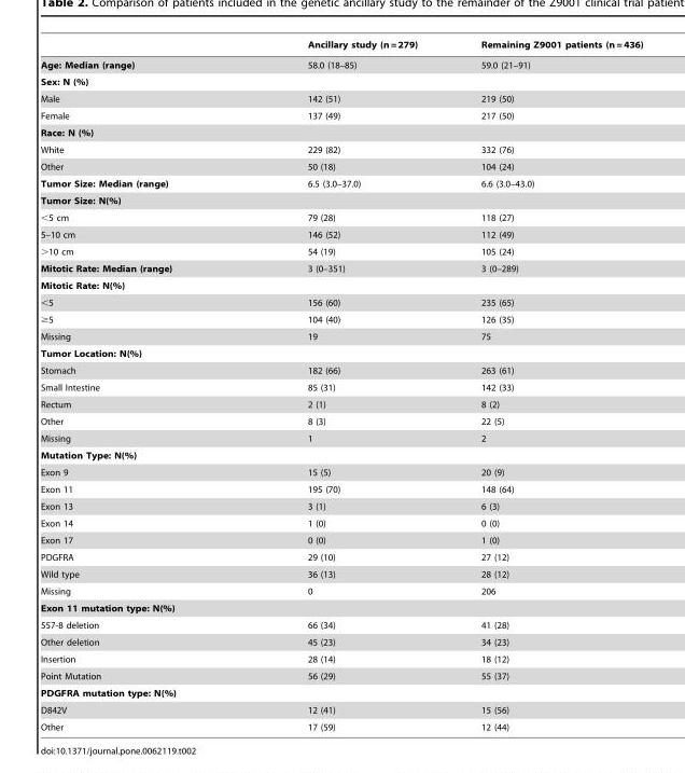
<table><thead><tr><td></td><td>Ancillary study (n = 279)</td><td>Remaining Z9001 patients (n = 436)</td></tr></thead><tbody><tr><td>Age: Median (range)</td><td>58.0 (18–85)</td><td>59.0 (21–91)</td></tr><tr><td colspan="3">Sex: N (%)</td></tr><tr><td>Male</td><td>142 (51)</td><td>219 (50)</td></tr><tr><td>Female</td><td>137 (49)</td><td>217 (50)</td></tr><tr><td colspan="3">Race: N (%)</td></tr><tr><td>White</td><td>229 (82)</td><td>332 (76)</td></tr><tr><td>Other</td><td>50 (18)</td><td>104 (24)</td></tr><tr><td>Tumor Size: Median (range)</td><td>6.5 (3.0–37.0)</td><td>6.6 (3.0–43.0)</td></tr><tr><td colspan="3">Tumor Size: N(%)</td></tr><tr><td>&lt;5 cm</td><td>79 (28)</td><td>118 (27)</td></tr><tr><td>5–10 cm</td><td>146 (52)</td><td>112 (49)</td></tr><tr><td>&gt;10 cm</td><td>54 (19)</td><td>105 (24)</td></tr><tr><td>Mitotic Rate: Median (range)</td><td>3 (0–351)</td><td>3 (0–289)</td></tr><tr><td colspan="3">Mitotic Rate: N(%)</td></tr><tr><td>&lt;5</td><td>156 (60)</td><td>235 (65)</td></tr><tr><td>≥5</td><td>104 (40)</td><td>126 (35)</td></tr><tr><td>Missing</td><td>19</td><td>75</td></tr><tr><td colspan="3">Tumor Location: N(%)</td></tr><tr><td>Stomach</td><td>182 (66)</td><td>263 (61)</td></tr><tr><td>Small Intestine</td><td>85 (31)</td><td>142 (33)</td></tr><tr><td>Rectum</td><td>2 (1)</td><td>8 (2)</td></tr><tr><td>Other</td><td>8 (3)</td><td>22 (5)</td></tr><tr><td>Missing</td><td>1</td><td>2</td></tr><tr><td colspan="3">Mutation Type: N(%)</td></tr><tr><td>Exon 9</td><td>15 (5)</td><td>20 (9)</td></tr><tr><td>Exon 11</td><td>195 (70)</td><td>148 (64)</td></tr><tr><td>Exon 13</td><td>3 (1)</td><td>6 (3)</td></tr><tr><td>Exon 14</td><td>1 (0)</td><td>0 (0)</td></tr><tr><td>Exon 17</td><td>0 (0)</td><td>1 (0)</td></tr><tr><td>PDGFRA</td><td>29 (10)</td><td>27 (12)</td></tr><tr><td>Wild type</td><td>36 (13)</td><td>28 (12)</td></tr><tr><td>Missing</td><td>0</td><td>206</td></tr><tr><td colspan="3">Exon 11 mutation type: N(%)</td></tr><tr><td>557-8 deletion</td><td>66 (34)</td><td>41 (28)</td></tr><tr><td>Other deletion</td><td>45 (23)</td><td>34 (23)</td></tr><tr><td>Insertion</td><td>28 (14)</td><td>18 (12)</td></tr><tr><td>Point Mutation</td><td>56 (29)</td><td>55 (37)</td></tr><tr><td colspan="3">PDGFRA mutation type: N(%)</td></tr><tr><td>D842V</td><td>12 (41)</td><td>15 (56)</td></tr><tr><td>Other</td><td>17 (59)</td><td>12 (44)</td></tr></tbody></table>